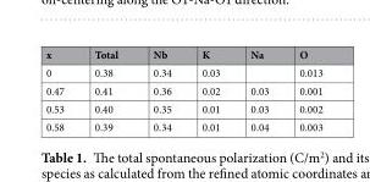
<table><thead><tr><td>x</td><td>Total</td><td>Nb</td><td>K</td><td>Na</td><td>O</td></tr></thead><tbody><tr><td>0</td><td>0.38</td><td>0.34</td><td>0.03</td><td></td><td>0.013</td></tr><tr><td>0.47</td><td>0.41</td><td>0.36</td><td>0.02</td><td>0.03</td><td>0.001</td></tr><tr><td>0.53</td><td>0.40</td><td>0.35</td><td>0.01</td><td>0.03</td><td>0.002</td></tr><tr><td>0.58</td><td>0.39</td><td>0.34</td><td>0.01</td><td>0.04</td><td>0.003</td></tr></tbody></table>